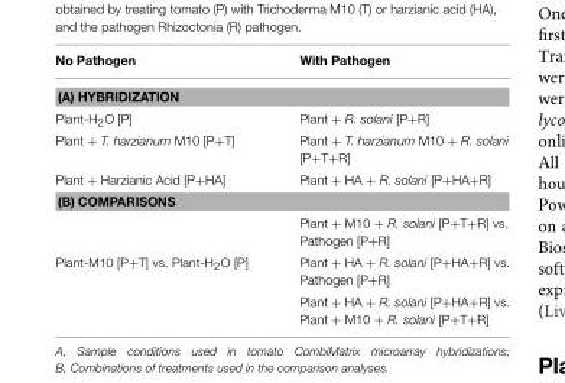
<table><thead><tr><td>No Pathogen</td><td>With Pathogen</td></tr></thead><tbody><tr><td colspan="2">(A) HYBRIDIZATION</td></tr><tr><td>Plant-H<sub>2</sub>O [P]</td><td>Plant + R. solani [P+R]</td></tr><tr><td>Plant + T. harzianum M10 [P+T]</td><td>Plant + T. harzianum M10 + R. solani [P+T+R]</td></tr><tr><td>Plant + Harzianic Acid [P+HA]</td><td>Plant + HA + R. solani [P+HA+R]</td></tr><tr><td colspan="2">(B) COMPARISONS</td></tr><tr><td></td><td>Plant + M10 + R. solani [P+T+R] vs. Pathogen [P+R]</td></tr><tr><td rowspan="2">Plant-M10 [P+T] vs. Plant-H<sub>2</sub>O [P]</td><td>Plant + HA + R. solani [P+HA+R] vs. Pathogen [P+R]</td></tr><tr><td>Plant + HA + R. solani [P+HA+R] vs. Plant + M10 + R. solani [P+T+R]</td></tr></tbody></table>